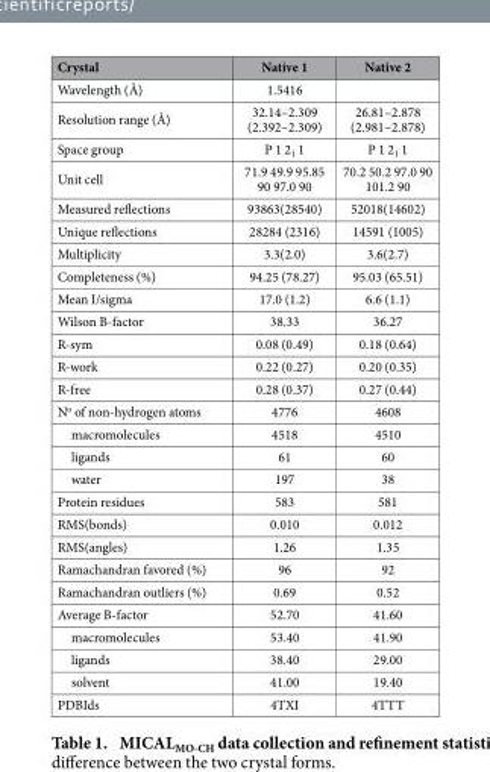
<table><thead><tr><td>Crystal</td><td>Native 1</td><td>Native 2</td></tr></thead><tbody><tr><td>Wavelength (Å)</td><td>1.5416</td><td></td></tr><tr><td>Resolution range (Å)</td><td>32.14–2.309 (2.392–2.309)</td><td>26.81–2.878 (2.981–2.878)</td></tr><tr><td>Space group</td><td>P 1 2<sub>1</sub> 1</td><td>P 1 2<sub>1</sub> 1</td></tr><tr><td>Unit cell</td><td>71.9 49.9 95.85 90 97.0 90</td><td>70.2 50.2 97.0 90 101.2 90</td></tr><tr><td>Measured reflections</td><td>93863(28540)</td><td>52018(14602)</td></tr><tr><td>Unique reflections</td><td>28284 (2316)</td><td>14591 (1005)</td></tr><tr><td>Multiplicity</td><td>3.3(2.0)</td><td>3.6(2.7)</td></tr><tr><td>Completeness (%)</td><td>94.25 (78.27)</td><td>95.03 (65.51)</td></tr><tr><td>Mean I/sigma</td><td>17.0 (1.2)</td><td>6.6 (1.1)</td></tr><tr><td>Wilson B-factor</td><td>38.33</td><td>36.27</td></tr><tr><td>R-sym</td><td>0.08 (0.49)</td><td>0.18 (0.64)</td></tr><tr><td>R-work</td><td>0.22 (0.27)</td><td>0.20 (0.35)</td></tr><tr><td>R-free</td><td>0.28 (0.37)</td><td>0.27 (0.44)</td></tr><tr><td>N<sup>o</sup> of non-hydrogen atoms</td><td>4776</td><td>4608</td></tr><tr><td>macromolecules</td><td>4518</td><td>4510</td></tr><tr><td>ligands</td><td>61</td><td>60</td></tr><tr><td>water</td><td>197</td><td>38</td></tr><tr><td>Protein residues</td><td>583</td><td>581</td></tr><tr><td>RMS(bonds)</td><td>0.010</td><td>0.012</td></tr><tr><td>RMS(angles)</td><td>1.26</td><td>1.35</td></tr><tr><td>Ramachandran favored (%)</td><td>96</td><td>92</td></tr><tr><td>Ramachandran outliers (%)</td><td>0.69</td><td>0.52</td></tr><tr><td>Average B-factor</td><td>52.70</td><td>41.60</td></tr><tr><td>macromolecules</td><td>53.40</td><td>41.90</td></tr><tr><td>ligands</td><td>38.40</td><td>29.00</td></tr><tr><td>solvent</td><td>41.00</td><td>19.40</td></tr><tr><td>PDBIds</td><td>4TXI</td><td>4TTT</td></tr></tbody></table>